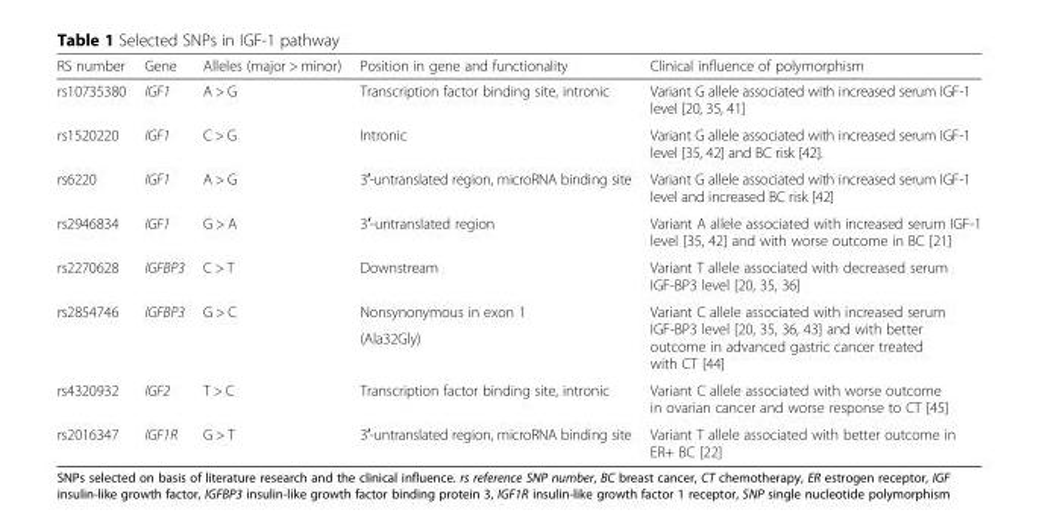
<table><thead><tr><td>RS number</td><td>Gene</td><td>Alleles (major &gt; minor)</td><td>Position in gene and functionality</td><td>Clinical influence of polymorphism</td></tr></thead><tbody><tr><td>rs10735380</td><td>IGF1</td><td>A &gt; G</td><td>Transcription factor binding site, intronic</td><td>Variant G allele associated with increased serum IGF-1 level [20, 35, 41]</td></tr><tr><td>rs1520220</td><td>IGF1</td><td>C &gt; G</td><td>Intronic</td><td>Variant G allele associated with increased serum IGF-1 level [35, 42] and BC risk [42].</td></tr><tr><td>rs6220</td><td>IGF1</td><td>A &gt; G</td><td>3′-untranslated region, microRNA binding site</td><td>Variant G allele associated with increased serum IGF-1 level and increased BC risk [42]</td></tr><tr><td>rs2946834</td><td>IGF1</td><td>G &gt; A</td><td>3′-untranslated region</td><td>Variant A allele associated with increased serum IGF-1 level [35, 42] and with worse outcome in BC [21]</td></tr><tr><td>rs2270628</td><td>IGFBP3</td><td>C &gt; T</td><td>Downstream</td><td>Variant T allele associated with decreased serum IGF-BP3 level [20, 35, 36]</td></tr><tr><td rowspan="2">rs2854746</td><td rowspan="2">IGFBP3</td><td rowspan="2">G &gt; C</td><td>Nonsynonymous in exon 1</td><td rowspan="2">Variant C allele associated with increased serum IGF-BP3 level [20, 35, 36, 43] and with better outcome in advanced gastric cancer treated with CT [44]</td></tr><tr><td>(Ala32Gly)</td></tr><tr><td>rs4320932</td><td>IGF2</td><td>T &gt; C</td><td>Transcription factor binding site, intronic</td><td>Variant C allele associated with worse outcome in ovarian cancer and worse response to CT [45]</td></tr><tr><td>rs2016347</td><td>IGF1R</td><td>G &gt; T</td><td>3′-untranslated region, microRNA binding site</td><td>Variant T allele associated with better outcome in ER+ BC [22]</td></tr></tbody></table>